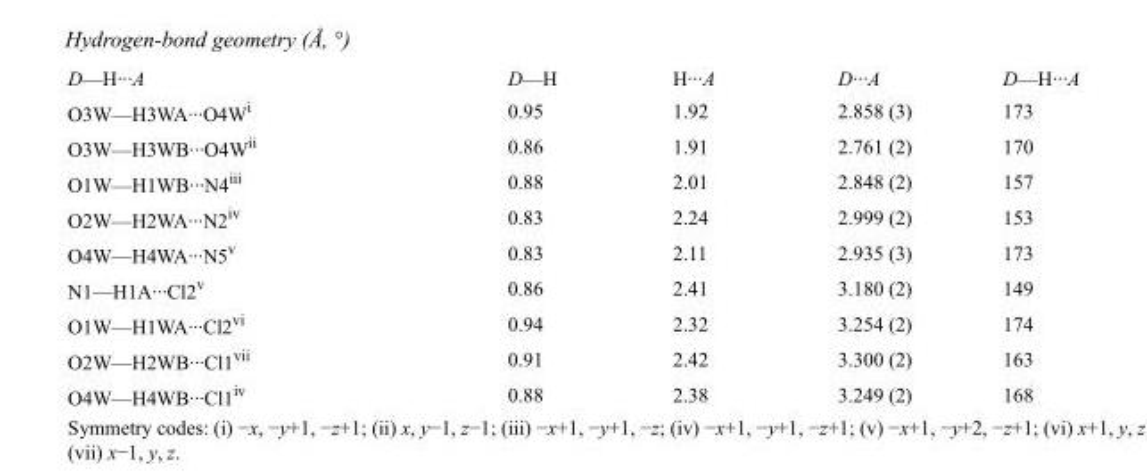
<table><tbody><tr><td>D—H···A</td><td>D—H</td><td>H···A</td><td>D···A</td><td>D—H···A</td></tr><tr><td>O3W—H3WA···O4W<sup>i</sup></td><td>0.95</td><td>1.92</td><td>2.858 (3)</td><td>173</td></tr><tr><td>O3W—H3WB···O4W<sup>ii</sup></td><td>0.86</td><td>1.91</td><td>2.761 (2)</td><td>170</td></tr><tr><td>O1W—H1WB···N4<sup>iii</sup></td><td>0.88</td><td>2.01</td><td>2.848 (2)</td><td>157</td></tr><tr><td>O2W—H2WA···N2<sup>iv</sup></td><td>0.83</td><td>2.24</td><td>2.999 (2)</td><td>153</td></tr><tr><td>O4W—H4WA···N5<sup>v</sup></td><td>0.83</td><td>2.11</td><td>2.935 (3)</td><td>173</td></tr><tr><td>N1—H1A···Cl2<sup>v</sup></td><td>0.86</td><td>2.41</td><td>3.180 (2)</td><td>149</td></tr><tr><td>O1W—H1WA···Cl2<sup>vi</sup></td><td>0.94</td><td>2.32</td><td>3.254 (2)</td><td>174</td></tr><tr><td>O2W—H2WB···Cl1<sup>vii</sup></td><td>0.91</td><td>2.42</td><td>3.300 (2)</td><td>163</td></tr><tr><td>O4W—H4WB···Cl1<sup>iv</sup></td><td>0.88</td><td>2.38</td><td>3.249 (2)</td><td>168</td></tr></tbody></table>